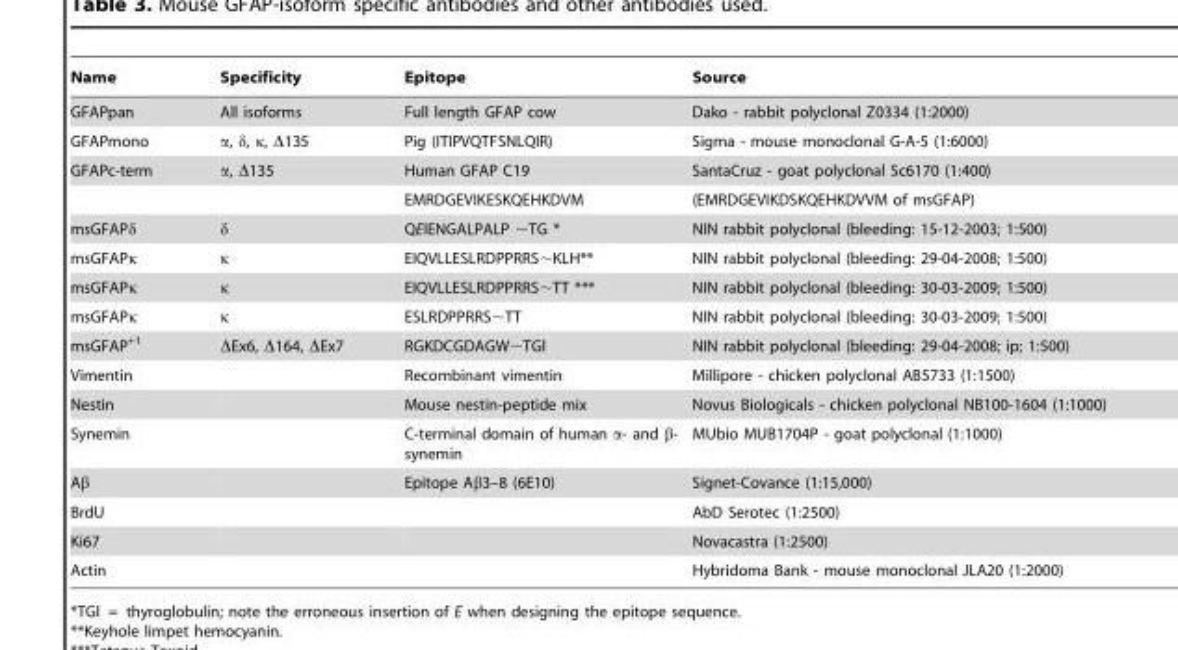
<table><thead><tr><td>Name</td><td>Specificity</td><td>Epitope</td><td>Source</td></tr></thead><tbody><tr><td>GFAPpan</td><td>All isoforms</td><td>Full length GFAP cow</td><td>Dako - rabbit polyclonal Z0334 (1:2000)</td></tr><tr><td>GFAPmono</td><td>α, δ, κ, Δ135</td><td>Pig (ITIPVQTFSNLQIR)</td><td>Sigma - mouse monoclonal G-A-5 (1:6000)</td></tr><tr><td rowspan="2">GFAPc-term</td><td>α, Δ135</td><td>Human GFAP C19</td><td>SantaCruz - goat polyclonal Sc6170 (1:400)</td></tr><tr><td></td><td>EMRDGEVIKESKQEHKDVM</td><td>(EMRDGEVIKDSKQEHKDVVM of msGFAP)</td></tr><tr><td>msGFAPδ</td><td>δ</td><td>QEIENGALPALP ∼TG *</td><td>NIN rabbit polyclonal (bleeding: 15-12-2003; 1:500)</td></tr><tr><td>msGFAPκ</td><td>κ</td><td>EIQVLLESLRDPPRRS∼KLH**</td><td>NIN rabbit polyclonal (bleeding: 29-04-2008; 1:500)</td></tr><tr><td>msGFAPκ</td><td>κ</td><td>EIQVLLESLRDPPRRS∼TT ***</td><td>NIN rabbit polyclonal (bleeding: 30-03-2009; 1:500)</td></tr><tr><td>msGFAPκ</td><td>κ</td><td>ESLRDPPRRS∼TT</td><td>NIN rabbit polyclonal (bleeding: 30-03-2009; 1:500)</td></tr><tr><td>msGFAP<sup>+1</sup></td><td>ΔEx6, Δ164, ΔEx7</td><td>RGKDCGDAGW∼TGl</td><td>NIN rabbit polyclonal (bleeding: 29-04-2008; ip; 1:500)</td></tr><tr><td>Vimentin</td><td></td><td>Recombinant vimentin</td><td>Millipore - chicken polyclonal AB5733 (1:1500)</td></tr><tr><td>Nestin</td><td></td><td>Mouse nestin-peptide mix</td><td>Novus Biologicals - chicken polyclonal NB100-1604 (1:1000)</td></tr><tr><td>Synemin</td><td></td><td>C-terminal domain of human α- and β- synemin</td><td>MUbio MUB1704P - goat polyclonal (1:1000)</td></tr><tr><td>Aβ</td><td></td><td>Epitope Aβ3–8 (6E10)</td><td>Signet-Covance (1:15,000)</td></tr><tr><td>BrdU</td><td></td><td></td><td>AbD Serotec (1:2500)</td></tr><tr><td>Ki67</td><td></td><td></td><td>Novacastra (1:2500)</td></tr><tr><td>Actin</td><td></td><td></td><td>Hybridoma Bank - mouse monoclonal JLA20 (1:2000)</td></tr></tbody></table>